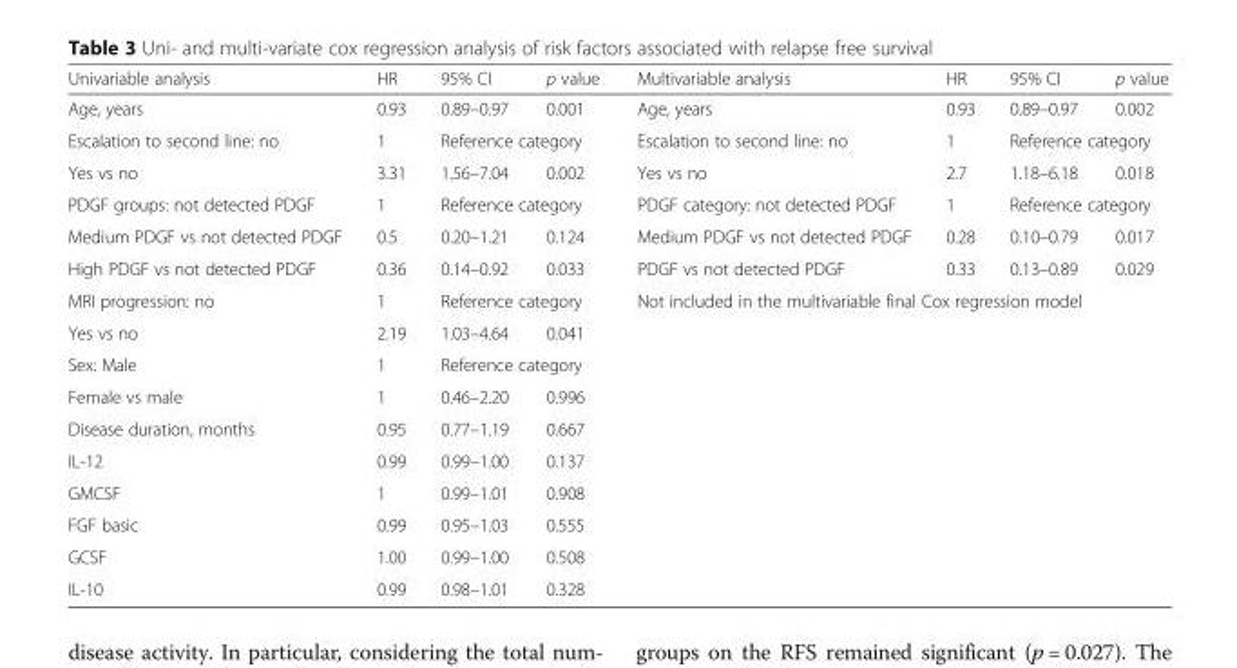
<table><thead><tr><td>Univariable analysis</td><td>HR</td><td>95% CI</td><td>p value</td><td>Multivariable analysis</td><td>HR</td><td>95% CI</td><td>p value</td></tr></thead><tbody><tr><td>Age, years</td><td>0.93</td><td>0.89–0.97</td><td>0.001</td><td>Age, years</td><td>0.93</td><td>0.89–0.97</td><td>0.002</td></tr><tr><td>Escalation to second line: no</td><td>1</td><td colspan="2">Reference category</td><td>Escalation to second line: no</td><td>1</td><td colspan="2">Reference category</td></tr><tr><td>Yes vs no</td><td>3.31</td><td>1.56–7.04</td><td>0.002</td><td>Yes vs no</td><td>2.7</td><td>1.18–6.18</td><td>0.018</td></tr><tr><td>PDGF groups: not detected PDGF</td><td>1</td><td colspan="2">Reference category</td><td>PDGF category: not detected PDGF</td><td>1</td><td colspan="2">Reference category</td></tr><tr><td>Medium PDGF vs not detected PDGF</td><td>0.5</td><td>0.20–1.21</td><td>0.124</td><td>Medium PDGF vs not detected PDGF</td><td>0.28</td><td>0.10–0.79</td><td>0.017</td></tr><tr><td>High PDGF vs not detected PDGF</td><td>0.36</td><td>0.14–0.92</td><td>0.033</td><td>PDGF vs not detected PDGF</td><td>0.33</td><td>0.13–0.89</td><td>0.029</td></tr><tr><td>MRI progression: no</td><td>1</td><td colspan="2">Reference category</td><td rowspan="10" colspan="4">Not included in the multivariable final Cox regression model</td></tr><tr><td>Yes vs no</td><td>2.19</td><td>1.03–4.64</td><td>0.041</td></tr><tr><td>Sex: Male</td><td>1</td><td colspan="2">Reference category</td></tr><tr><td>Female vs male</td><td>1</td><td>0.46–2.20</td><td>0.996</td></tr><tr><td>Disease duration, months</td><td>0.95</td><td>0.77–1.19</td><td>0.667</td></tr><tr><td>IL-12</td><td>0.99</td><td>0.99–1.00</td><td>0.137</td></tr><tr><td>GMCSF</td><td>1</td><td>0.99–1.01</td><td>0.908</td></tr><tr><td>FGF basic</td><td>0.99</td><td>0.95–1.03</td><td>0.555</td></tr><tr><td>GCSF</td><td>1.00</td><td>0.99–1.00</td><td>0.508</td></tr><tr><td>IL-10</td><td>0.99</td><td>0.98–1.01</td><td>0.328</td></tr></tbody></table>